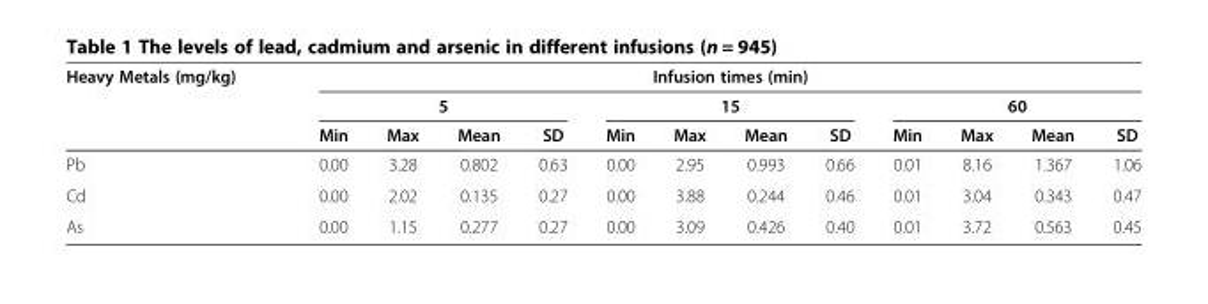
<table><thead><tr><td rowspan="3">Heavy Metals (mg/kg)</td><td colspan="12">Infusion times (min)</td></tr><tr><td colspan="4">5</td><td colspan="4">15</td><td colspan="4">60</td></tr><tr><td>Min</td><td>Max</td><td>Mean</td><td>SD</td><td>Min</td><td>Max</td><td>Mean</td><td>SD</td><td>Min</td><td>Max</td><td>Mean</td><td>SD</td></tr></thead><tbody><tr><td>Pb</td><td>0.00</td><td>3.28</td><td>0.802</td><td>0.63</td><td>0.00</td><td>2.95</td><td>0.993</td><td>0.66</td><td>0.01</td><td>8.16</td><td>1.367</td><td>1.06</td></tr><tr><td>Cd</td><td>0.00</td><td>2.02</td><td>0.135</td><td>0.27</td><td>0.00</td><td>3.88</td><td>0.244</td><td>0.46</td><td>0.01</td><td>3.04</td><td>0.343</td><td>0.47</td></tr><tr><td>As</td><td>0.00</td><td>1.15</td><td>0.277</td><td>0.27</td><td>0.00</td><td>3.09</td><td>0.426</td><td>0.40</td><td>0.01</td><td>3.72</td><td>0.563</td><td>0.45</td></tr></tbody></table>